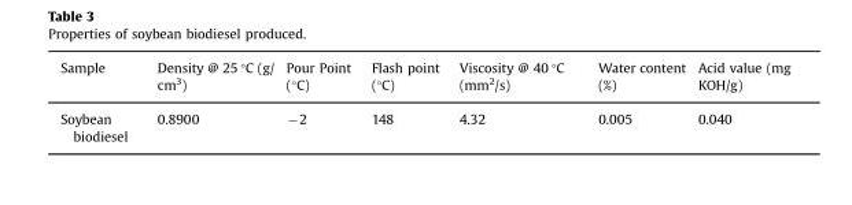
<table><thead><tr><td>Sample</td><td>Density @ 25 °C (g/ cm<sup>3</sup>)</td><td>Pour Point (°C)</td><td>Flash point (°C)</td><td>Viscosity @ 40 °C (mm<sup>2</sup>/s)</td><td>Water content (%)</td><td>Acid value (mg KOH/g)</td></tr></thead><tbody><tr><td>Soybean biodiesel</td><td>0.8900</td><td>−2</td><td>148</td><td>4.32</td><td>0.005</td><td>0.040</td></tr></tbody></table>